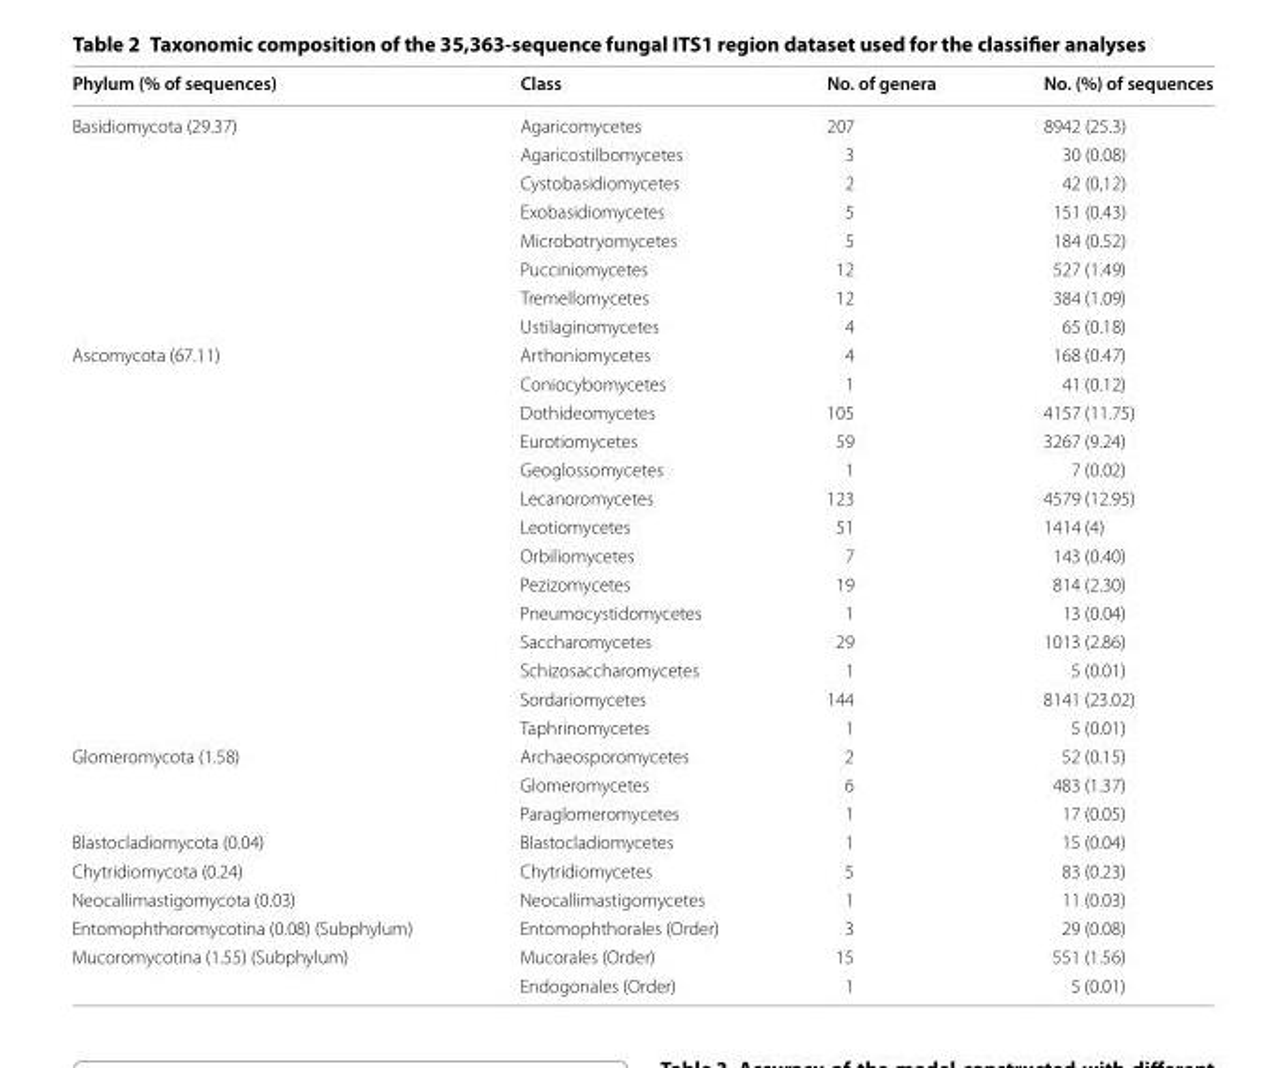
<table><thead><tr><td>Phylum (% of sequences)</td><td>Class</td><td>No. of genera</td><td>No. (%) of sequences</td></tr></thead><tbody><tr><td rowspan="8">Basidiomycota (29.37)</td><td>Agaricomycetes</td><td>207</td><td>8942 (25.3)</td></tr><tr><td>Agaricostilbomycetes</td><td>3</td><td>30 (0.08)</td></tr><tr><td>Cystobasidiomycetes</td><td>2</td><td>42 (0,12)</td></tr><tr><td>Exobasidiomycetes</td><td>5</td><td>151 (0.43)</td></tr><tr><td>Microbotryomycetes</td><td>5</td><td>184 (0.52)</td></tr><tr><td>Pucciniomycetes</td><td>12</td><td>527 (1.49)</td></tr><tr><td>Tremellomycetes</td><td>12</td><td>384 (1.09)</td></tr><tr><td>Ustilaginomycetes</td><td>4</td><td>65 (0.18)</td></tr><tr><td rowspan="14">Ascomycota (67.11)</td><td>Arthoniomycetes</td><td>4</td><td>168 (0.47)</td></tr><tr><td>Coniocybomycetes</td><td>1</td><td>41 (0.12)</td></tr><tr><td>Dothideomycetes</td><td>105</td><td>4157 (11.75)</td></tr><tr><td>Eurotiomycetes</td><td>59</td><td>3267 (9.24)</td></tr><tr><td>Geoglossomycetes</td><td>1</td><td>7 (0.02)</td></tr><tr><td>Lecanoromycetes</td><td>123</td><td>4579 (12.95)</td></tr><tr><td>Leotiomycetes</td><td>51</td><td>1414 (4)</td></tr><tr><td>Orbiliomycetes</td><td>7</td><td>143 (0.40)</td></tr><tr><td>Pezizomycetes</td><td>19</td><td>814 (2.30)</td></tr><tr><td>Pneumocystidomycetes</td><td>1</td><td>13 (0.04)</td></tr><tr><td>Saccharomycetes</td><td>29</td><td>1013 (2.86)</td></tr><tr><td>Schizosaccharomycetes</td><td>1</td><td>5 (0.01)</td></tr><tr><td>Sordariomycetes</td><td>144</td><td>8141 (23.02)</td></tr><tr><td>Taphrinomycetes</td><td>1</td><td>5 (0.01)</td></tr><tr><td rowspan="3">Glomeromycota (1.58)</td><td>Archaeosporomycetes</td><td>2</td><td>52 (0.15)</td></tr><tr><td>Glomeromycetes</td><td>6</td><td>483 (1.37)</td></tr><tr><td>Paraglomeromycetes</td><td>1</td><td>17 (0.05)</td></tr><tr><td>Blastocladiomycota (0.04)</td><td>Blastocladiomycetes</td><td>1</td><td>15 (0.04)</td></tr><tr><td>Chytridiomycota (0.24)</td><td>Chytridiomycetes</td><td>5</td><td>83 (0.23)</td></tr><tr><td>Neocallimastigomycota (0.03)</td><td>Neocallimastigomycetes</td><td>1</td><td>11 (0.03)</td></tr><tr><td>Entomophthoromycotina (0.08) (Subphylum)</td><td>Entomophthorales (Order)</td><td>3</td><td>29 (0.08)</td></tr><tr><td rowspan="2">Mucoromycotina (1.55) (Subphylum)</td><td>Mucorales (Order)</td><td>15</td><td>551 (1.56)</td></tr><tr><td>Endogonales (Order)</td><td>1</td><td>5 (0.01)</td></tr></tbody></table>